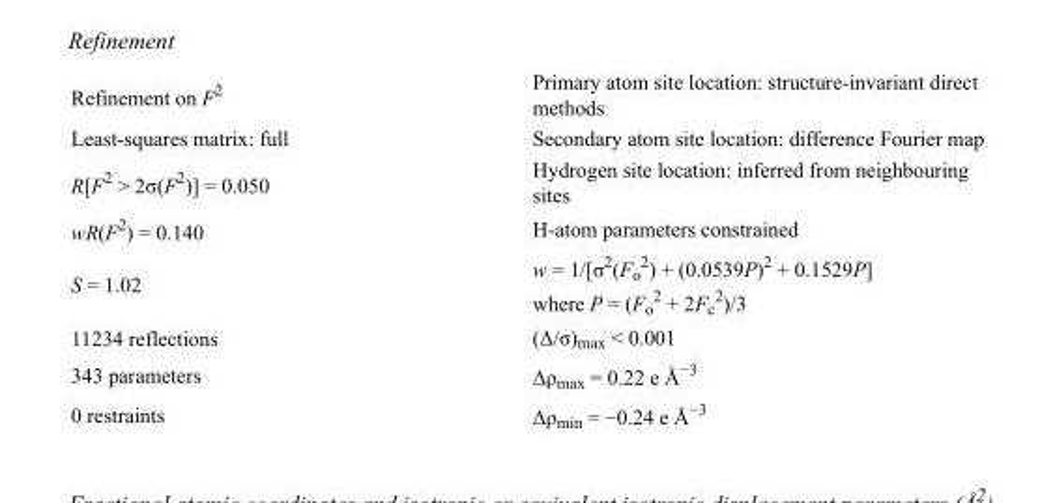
<table><tbody><tr><td>Refinement on F<sup>2</sup></td><td>Primary atom site location: structure-invariant direct methods</td></tr><tr><td>Least-squares matrix: full</td><td>Secondary atom site location: difference Fourier map</td></tr><tr><td>R[F<sup>2</sup> &gt; 2σ(F<sup>2</sup>)] = 0.050</td><td>Hydrogen site location: inferred from neighbouring sites</td></tr><tr><td>wR(F<sup>2</sup>) = 0.140</td><td>H-atom parameters constrained</td></tr><tr><td>S = 1.02</td><td>w = 1/[σ<sup>2</sup>(F<sub>o</sub> <sup>2</sup>) + (0.0539P)<sup>2</sup> + 0.1529P] where P = (F<sub>o</sub> <sup>2</sup> + 2F<sub>c</sub> <sup>2</sup>)/3</td></tr><tr><td>11234 reflections</td><td>(Δ/σ)<sub>max</sub> &lt; 0.001</td></tr><tr><td>343 parameters</td><td>Δρ<sub>max</sub> = 0.22 e Å<sup>−3</sup></td></tr><tr><td>0 restraints</td><td>Δρ<sub>min</sub> = −0.24 e Å<sup>−3</sup></td></tr></tbody></table>